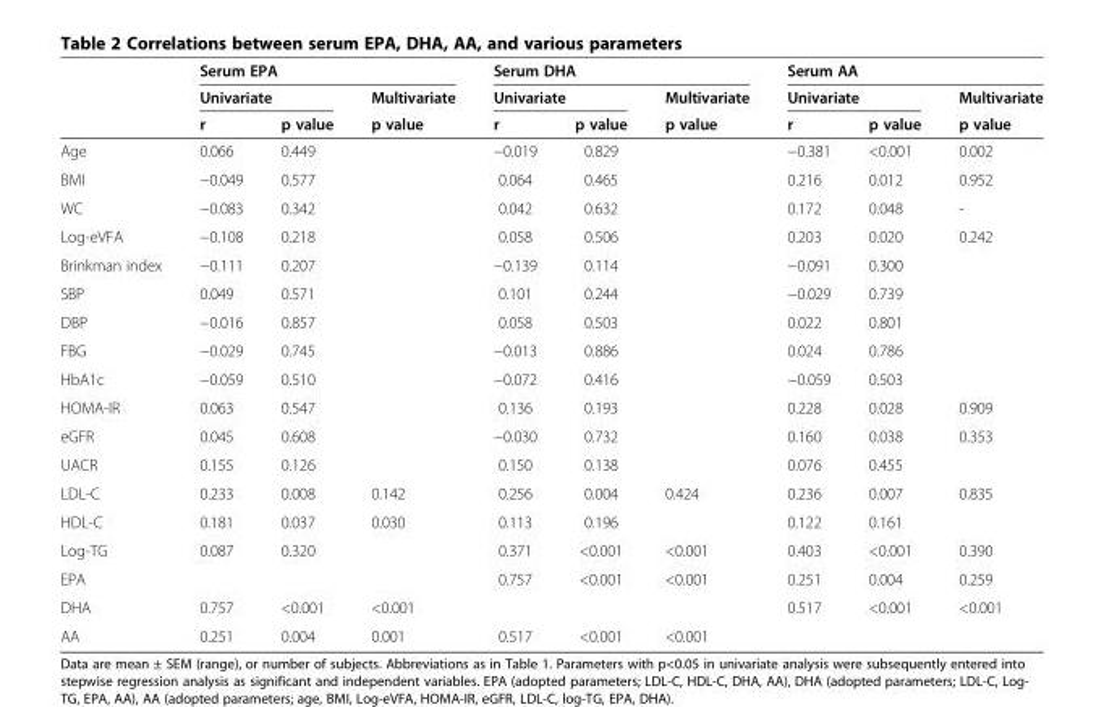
<table><thead><tr><td rowspan="3"></td><td colspan="3">Serum EPA</td><td colspan="3">Serum DHA</td><td colspan="3">Serum AA</td></tr><tr><td colspan="2">Univariate</td><td rowspan="2">Multivariate p value</td><td colspan="2">Univariate</td><td rowspan="2">Multivariate p value</td><td colspan="2">Univariate</td><td rowspan="2">Multivariate p value</td></tr><tr><td>r</td><td>p value</td><td>r</td><td>p value</td><td>r</td><td>p value</td></tr></thead><tbody><tr><td>Age</td><td>0.066</td><td>0.449</td><td></td><td>−0.019</td><td>0.829</td><td></td><td>−0.381</td><td>&lt;0.001</td><td>0.002</td></tr><tr><td>BMI</td><td>−0.049</td><td>0.577</td><td></td><td>0.064</td><td>0.465</td><td></td><td>0.216</td><td>0.012</td><td>0.952</td></tr><tr><td>WC</td><td>−0.083</td><td>0.342</td><td></td><td>0.042</td><td>0.632</td><td></td><td>0.172</td><td>0.048</td><td>-</td></tr><tr><td>Log-eVFA</td><td>−0.108</td><td>0.218</td><td></td><td>0.058</td><td>0.506</td><td></td><td>0.203</td><td>0.020</td><td>0.242</td></tr><tr><td>Brinkman index</td><td>−0.111</td><td>0.207</td><td></td><td>−0.139</td><td>0.114</td><td></td><td>−0.091</td><td>0.300</td><td></td></tr><tr><td>SBP</td><td>0.049</td><td>0.571</td><td></td><td>0.101</td><td>0.244</td><td></td><td>−0.029</td><td>0.739</td><td></td></tr><tr><td>DBP</td><td>−0.016</td><td>0.857</td><td></td><td>0.058</td><td>0.503</td><td></td><td>0.022</td><td>0.801</td><td></td></tr><tr><td>FBG</td><td>−0.029</td><td>0.745</td><td></td><td>−0.013</td><td>0.886</td><td></td><td>0.024</td><td>0.786</td><td></td></tr><tr><td>HbA1c</td><td>−0.059</td><td>0.510</td><td></td><td>−0.072</td><td>0.416</td><td></td><td>−0.059</td><td>0.503</td><td></td></tr><tr><td>HOMA-IR</td><td>0.063</td><td>0.547</td><td></td><td>0.136</td><td>0.193</td><td></td><td>0.228</td><td>0.028</td><td>0.909</td></tr><tr><td>eGFR</td><td>0.045</td><td>0.608</td><td></td><td>−0.030</td><td>0.732</td><td></td><td>0.160</td><td>0.038</td><td>0.353</td></tr><tr><td>UACR</td><td>0.155</td><td>0.126</td><td></td><td>0.150</td><td>0.138</td><td></td><td>0.076</td><td>0.455</td><td></td></tr><tr><td>LDL-C</td><td>0.233</td><td>0.008</td><td>0.142</td><td>0.256</td><td>0.004</td><td>0.424</td><td>0.236</td><td>0.007</td><td>0.835</td></tr><tr><td>HDL-C</td><td>0.181</td><td>0.037</td><td>0.030</td><td>0.113</td><td>0.196</td><td></td><td>0.122</td><td>0.161</td><td></td></tr><tr><td>Log-TG</td><td>0.087</td><td>0.320</td><td></td><td>0.371</td><td>&lt;0.001</td><td>&lt;0.001</td><td>0.403</td><td>&lt;0.001</td><td>0.390</td></tr><tr><td>EPA</td><td></td><td></td><td></td><td>0.757</td><td>&lt;0.001</td><td>&lt;0.001</td><td>0.251</td><td>0.004</td><td>0.259</td></tr><tr><td>DHA</td><td>0.757</td><td>&lt;0.001</td><td>&lt;0.001</td><td></td><td></td><td></td><td>0.517</td><td>&lt;0.001</td><td>&lt;0.001</td></tr><tr><td>AA</td><td>0.251</td><td>0.004</td><td>0.001</td><td>0.517</td><td>&lt;0.001</td><td>&lt;0.001</td><td></td><td></td><td></td></tr></tbody></table>